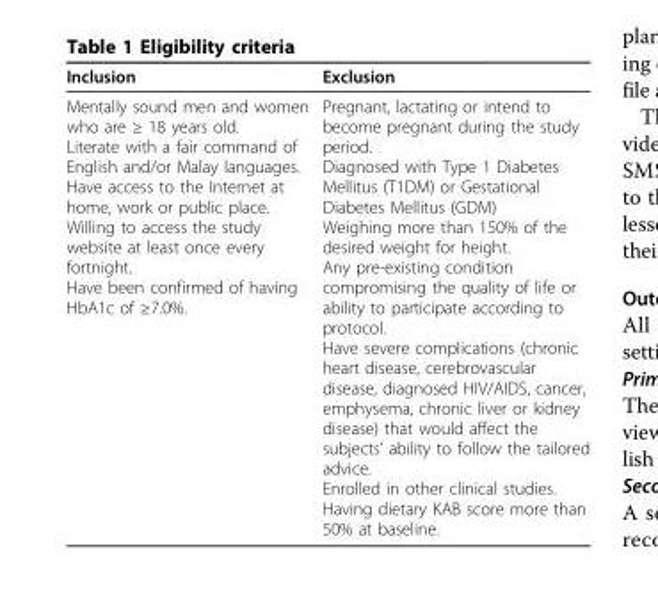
<table><thead><tr><td>Inclusion</td><td>Exclusion</td></tr></thead><tbody><tr><td>Mentally sound men and women who are ≥ 18 years old. Literate with a fair command of English and/or Malay languages. Have access to the Internet at home, work or public place. Willing to access the study website at least once every fortnight. Have been confirmed of having HbA1c of ≥7.0%.</td><td>Pregnant, lactating or intend to become pregnant during the study period. Diagnosed with Type 1 Diabetes Mellitus (T1DM) or Gestational Diabetes Mellitus (GDM) Weighing more than 150% of the desired weight for height. Any pre-existing condition compromising the quality of life or ability to participate according to protocol. Have severe complications (chronic heart disease, cerebrovascular disease, diagnosed HIV/AIDS, cancer, emphysema, chronic liver or kidney disease) that would affect the subjects’ ability to follow the tailored advice. Enrolled in other clinical studies. Having dietary KAB score more than 50% at baseline.</td></tr></tbody></table>